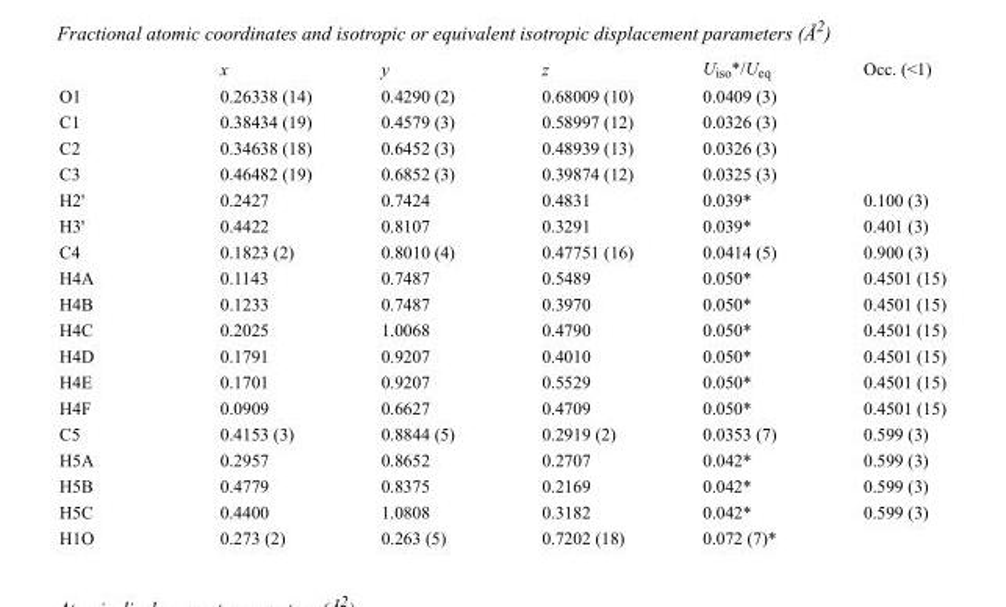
<table><thead><tr><td></td><td>x</td><td>y</td><td>z</td><td>U<sub>iso</sub>*/U<sub>eq</sub></td><td>Occ. (&lt;1)</td></tr></thead><tbody><tr><td>O1</td><td>0.26338 (14)</td><td>0.4290 (2)</td><td>0.68009 (10)</td><td>0.0409 (3)</td><td></td></tr><tr><td>C1</td><td>0.38434 (19)</td><td>0.4579 (3)</td><td>0.58997 (12)</td><td>0.0326 (3)</td><td></td></tr><tr><td>C2</td><td>0.34638 (18)</td><td>0.6452 (3)</td><td>0.48939 (13)</td><td>0.0326 (3)</td><td></td></tr><tr><td>C3</td><td>0.46482 (19)</td><td>0.6852 (3)</td><td>0.39874 (12)</td><td>0.0325 (3)</td><td></td></tr><tr><td>H2&#x27;</td><td>0.2427</td><td>0.7424</td><td>0.4831</td><td>0.039*</td><td>0.100 (3)</td></tr><tr><td>H3&#x27;</td><td>0.4422</td><td>0.8107</td><td>0.3291</td><td>0.039*</td><td>0.401 (3)</td></tr><tr><td>C4</td><td>0.1823 (2)</td><td>0.8010 (4)</td><td>0.47751 (16)</td><td>0.0414 (5)</td><td>0.900 (3)</td></tr><tr><td>H4A</td><td>0.1143</td><td>0.7487</td><td>0.5489</td><td>0.050*</td><td>0.4501 (15)</td></tr><tr><td>H4B</td><td>0.1233</td><td>0.7487</td><td>0.3970</td><td>0.050*</td><td>0.4501 (15)</td></tr><tr><td>H4C</td><td>0.2025</td><td>1.0068</td><td>0.4790</td><td>0.050*</td><td>0.4501 (15)</td></tr><tr><td>H4D</td><td>0.1791</td><td>0.9207</td><td>0.4010</td><td>0.050*</td><td>0.4501 (15)</td></tr><tr><td>H4E</td><td>0.1701</td><td>0.9207</td><td>0.5529</td><td>0.050*</td><td>0.4501 (15)</td></tr><tr><td>H4F</td><td>0.0909</td><td>0.6627</td><td>0.4709</td><td>0.050*</td><td>0.4501 (15)</td></tr><tr><td>C5</td><td>0.4153 (3)</td><td>0.8844 (5)</td><td>0.2919 (2)</td><td>0.0353 (7)</td><td>0.599 (3)</td></tr><tr><td>H5A</td><td>0.2957</td><td>0.8652</td><td>0.2707</td><td>0.042*</td><td>0.599 (3)</td></tr><tr><td>H5B</td><td>0.4779</td><td>0.8375</td><td>0.2169</td><td>0.042*</td><td>0.599 (3)</td></tr><tr><td>H5C</td><td>0.4400</td><td>1.0808</td><td>0.3182</td><td>0.042*</td><td>0.599 (3)</td></tr><tr><td>H1O</td><td>0.273 (2)</td><td>0.263 (5)</td><td>0.7202 (18)</td><td>0.072 (7)*</td><td></td></tr></tbody></table>